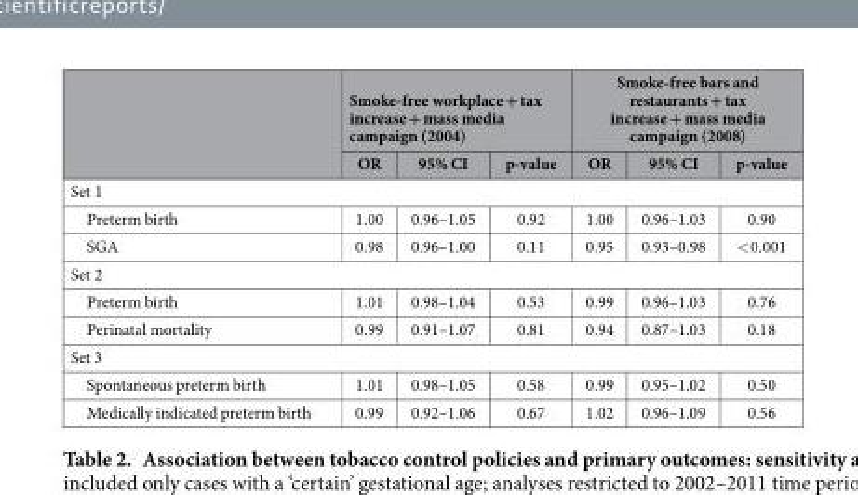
<table><thead><tr><td rowspan="2"></td><td colspan="3">Smoke-free workplace + tax increase + mass media campaign (2004)</td><td colspan="3">Smoke-free bars and restaurants + tax increase + mass media campaign (2008)</td></tr><tr><td>OR</td><td>95% CI</td><td>p-value</td><td>OR</td><td>95% CI</td><td>p-value</td></tr></thead><tbody><tr><td colspan="7">Set 1</td></tr><tr><td>Preterm birth</td><td>1.00</td><td>0.96–1.05</td><td>0.92</td><td>1.00</td><td>0.96–1.03</td><td>0.90</td></tr><tr><td>SGA</td><td>0.98</td><td>0.96–1.00</td><td>0.11</td><td>0.95</td><td>0.93–0.98</td><td>&lt; 0.001</td></tr><tr><td colspan="7">Set 2</td></tr><tr><td>Preterm birth</td><td>1.01</td><td>0.98–1.04</td><td>0.53</td><td>0.99</td><td>0.96–1.03</td><td>0.76</td></tr><tr><td>Perinatal mortality</td><td>0.99</td><td>0.91–1.07</td><td>0.81</td><td>0.94</td><td>0.87–1.03</td><td>0.18</td></tr><tr><td colspan="7">Set 3</td></tr><tr><td>Spontaneous preterm birth</td><td>1.01</td><td>0.98–1.05</td><td>0.58</td><td>0.99</td><td>0.95–1.02</td><td>0.50</td></tr><tr><td>Medically indicated preterm birth</td><td>0.99</td><td>0.92–1.06</td><td>0.67</td><td>1.02</td><td>0.96–1.09</td><td>0.56</td></tr></tbody></table>